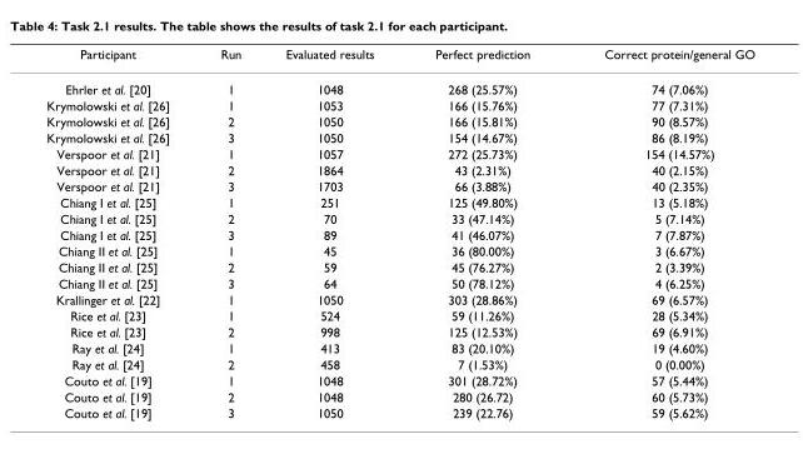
<table><thead><tr><td>Participant</td><td>Run</td><td>Evaluated results</td><td>Perfect prediction</td><td>Correct protein/general GO</td></tr></thead><tbody><tr><td>Ehrler et al. [20]</td><td>1</td><td>1048</td><td>268 (25.57%)</td><td>74 (7.06%)</td></tr><tr><td>Krymolowski et al. [26]</td><td>1</td><td>1053</td><td>166 (15.76%)</td><td>77 (7.31%)</td></tr><tr><td>Krymolowski et al. [26]</td><td>2</td><td>1050</td><td>166 (15.81%)</td><td>90 (8.57%)</td></tr><tr><td>Krymolowski et al. [26]</td><td>3</td><td>1050</td><td>154 (14.67%)</td><td>86 (8.19%)</td></tr><tr><td>Verspoor et al. [21]</td><td>1</td><td>1057</td><td>272 (25.73%)</td><td>154 (14.57%)</td></tr><tr><td>Verspoor et al. [21]</td><td>2</td><td>1864</td><td>43 (2.31%)</td><td>40 (2.15%)</td></tr><tr><td>Verspoor et al. [21]</td><td>3</td><td>1703</td><td>66 (3.88%)</td><td>40 (2.35%)</td></tr><tr><td>Chiang I et al. [25]</td><td>1</td><td>251</td><td>125 (49.80%)</td><td>13 (5.18%)</td></tr><tr><td>Chiang I et al. [25]</td><td>2</td><td>70</td><td>33 (47.14%)</td><td>5 (7.14%)</td></tr><tr><td>Chiang I et al. [25]</td><td>3</td><td>89</td><td>41 (46.07%)</td><td>7 (7.87%)</td></tr><tr><td>Chiang II et al. [25]</td><td>1</td><td>45</td><td>36 (80.00%)</td><td>3 (6.67%)</td></tr><tr><td>Chiang II et al. [25]</td><td>2</td><td>59</td><td>45 (76.27%)</td><td>2 (3.39%)</td></tr><tr><td>Chiang II et al. [25]</td><td>3</td><td>64</td><td>50 (78.12%)</td><td>4 (6.25%)</td></tr><tr><td>Krallinger et al. [22]</td><td>1</td><td>1050</td><td>303 (28.86%)</td><td>69 (6.57%)</td></tr><tr><td>Rice et al. [23]</td><td>1</td><td>524</td><td>59 (11.26%)</td><td>28 (5.34%)</td></tr><tr><td>Rice et al. [23]</td><td>2</td><td>998</td><td>125 (12.53%)</td><td>69 (6.91%)</td></tr><tr><td>Ray et al. [24]</td><td>1</td><td>413</td><td>83 (20.10%)</td><td>19 (4.60%)</td></tr><tr><td>Ray et al. [24]</td><td>2</td><td>458</td><td>7 (1.53%)</td><td>0 (0.00%)</td></tr><tr><td>Couto et al. [19]</td><td>1</td><td>1048</td><td>301 (28.72%)</td><td>57 (5.44%)</td></tr><tr><td>Couto et al. [19]</td><td>2</td><td>1048</td><td>280 (26.72)</td><td>60 (5.73%)</td></tr><tr><td>Couto et al. [19]</td><td>3</td><td>1050</td><td>239 (22.76)</td><td>59 (5.62%)</td></tr></tbody></table>